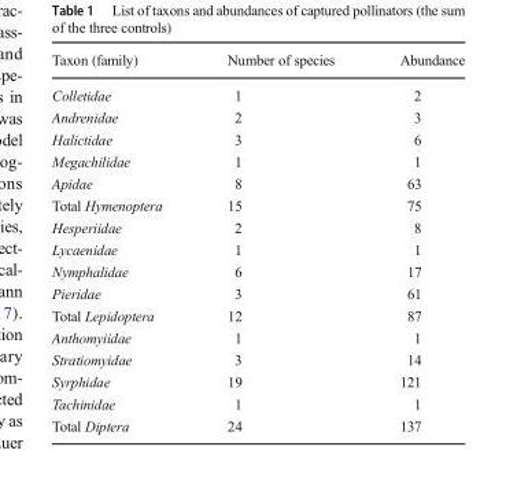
<table><thead><tr><td>Taxon (family)</td><td>Number of species</td><td>Abundance</td></tr></thead><tbody><tr><td>Colletidae</td><td>1</td><td>2</td></tr><tr><td>Andrenidae</td><td>2</td><td>3</td></tr><tr><td>Halictidae</td><td>3</td><td>6</td></tr><tr><td>Megachilidae</td><td>1</td><td>1</td></tr><tr><td>Apidae</td><td>8</td><td>63</td></tr><tr><td>Total Hymenoptera</td><td>15</td><td>75</td></tr><tr><td>Hesperiidae</td><td>2</td><td>8</td></tr><tr><td>Lycaenidae</td><td>1</td><td>1</td></tr><tr><td>Nymphalidae</td><td>6</td><td>17</td></tr><tr><td>Pieridae</td><td>3</td><td>61</td></tr><tr><td>Total Lepidoptera</td><td>12</td><td>87</td></tr><tr><td>Anthomyiidae</td><td>1</td><td>1</td></tr><tr><td>Stratiomyidae</td><td>3</td><td>14</td></tr><tr><td>Syrphidae</td><td>19</td><td>121</td></tr><tr><td>Tachinidae</td><td>1</td><td>1</td></tr><tr><td>Total Diptera</td><td>24</td><td>137</td></tr></tbody></table>